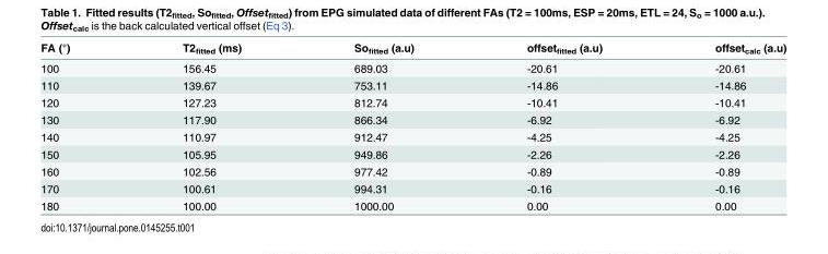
<table><thead><tr><td>FA (°)</td><td>T2<sub>fitted</sub> (ms)</td><td>So<sub>fitted</sub> (a.u)</td><td>offset<sub>fitted</sub> (a.u)</td><td>offset<sub>calc</sub> (a.u)</td></tr></thead><tbody><tr><td>100</td><td>156.45</td><td>689.03</td><td>-20.61</td><td>-20.61</td></tr><tr><td>110</td><td>139.67</td><td>753.11</td><td>-14.86</td><td>-14.86</td></tr><tr><td>120</td><td>127.23</td><td>812.74</td><td>-10.41</td><td>-10.41</td></tr><tr><td>130</td><td>117.90</td><td>866.34</td><td>-6.92</td><td>-6.92</td></tr><tr><td>140</td><td>110.97</td><td>912.47</td><td>-4.25</td><td>-4.25</td></tr><tr><td>150</td><td>105.95</td><td>949.86</td><td>-2.26</td><td>-2.26</td></tr><tr><td>160</td><td>102.56</td><td>977.42</td><td>-0.89</td><td>-0.89</td></tr><tr><td>170</td><td>100.61</td><td>994.31</td><td>-0.16</td><td>-0.16</td></tr><tr><td>180</td><td>100.00</td><td>1000.00</td><td>0.00</td><td>0.00</td></tr></tbody></table>